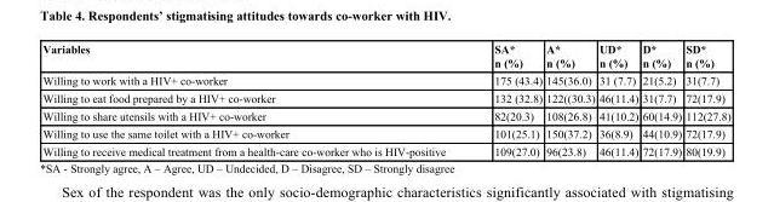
<table><thead><tr><td>Variables</td><td>SA* n (%)</td><td>A* n (%)</td><td>UD* n (%)</td><td>D* n (%)</td><td>SD* n (%)</td></tr></thead><tbody><tr><td>Willing to work with a HIV+ co-worker</td><td>175 (43.4)</td><td>145(36.0)</td><td>31 (7.7)</td><td>21(5.2)</td><td>31(7.7)</td></tr><tr><td>Willing to eat food prepared by a HIV+ co-worker</td><td>132 (32.8)</td><td>122((30.3)</td><td>46(11.4)</td><td>31(7.7)</td><td>72(17.9)</td></tr><tr><td>Willing to share utensils with a HIV+ co-worker</td><td>82(20.3)</td><td>108(26.8)</td><td>41(10.2)</td><td>60(14.9)</td><td>112(27.8)</td></tr><tr><td>Willing to use the same toilet with a HIV+ co-worker</td><td>101(25.1)</td><td>150(37.2)</td><td>36(8.9)</td><td>44(10.9)</td><td>72(17.9)</td></tr><tr><td>Willing to receive medical treatment from a health-care co-worker who is HIV-positive</td><td>109(27.0)</td><td>96(23.8)</td><td>46(11.4)</td><td>72(17.9)</td><td>80(19.9)</td></tr></tbody></table>